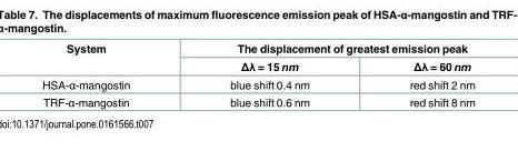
<table><thead><tr><td rowspan="2">System</td><td colspan="2">The displacement of greatest emission peak</td></tr><tr><td>Δλ = 15 nm</td><td>Δλ = 60 nm</td></tr></thead><tbody><tr><td>HSA-α-mangostin</td><td>blue shift 0.4 nm</td><td>red shift 2 nm</td></tr><tr><td>TRF-α-mangostin</td><td>blue shift 0.6 nm</td><td>red shift 8 nm</td></tr></tbody></table>